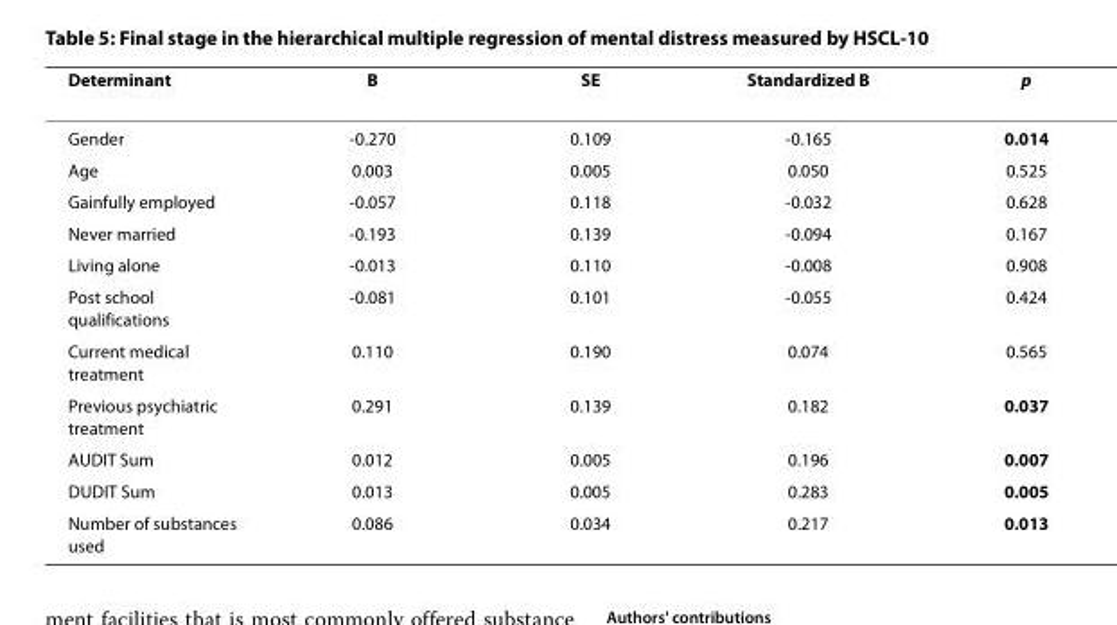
<table><thead><tr><td>Determinant</td><td>B</td><td>SE</td><td>Standardized B</td><td>p</td></tr></thead><tbody><tr><td>Gender</td><td>-0.270</td><td>0.109</td><td>-0.165</td><td>0.014</td></tr><tr><td>Age</td><td>0.003</td><td>0.005</td><td>0.050</td><td>0.525</td></tr><tr><td>Gainfully employed</td><td>-0.057</td><td>0.118</td><td>-0.032</td><td>0.628</td></tr><tr><td>Never married</td><td>-0.193</td><td>0.139</td><td>-0.094</td><td>0.167</td></tr><tr><td>Living alone</td><td>-0.013</td><td>0.110</td><td>-0.008</td><td>0.908</td></tr><tr><td>Post school qualifications</td><td>-0.081</td><td>0.101</td><td>-0.055</td><td>0.424</td></tr><tr><td>Current medical treatment</td><td>0.110</td><td>0.190</td><td>0.074</td><td>0.565</td></tr><tr><td>Previous psychiatric treatment</td><td>0.291</td><td>0.139</td><td>0.182</td><td>0.037</td></tr><tr><td>AUDIT Sum</td><td>0.012</td><td>0.005</td><td>0.196</td><td>0.007</td></tr><tr><td>DUDIT Sum</td><td>0.013</td><td>0.005</td><td>0.283</td><td>0.005</td></tr><tr><td>Number of substances used</td><td>0.086</td><td>0.034</td><td>0.217</td><td>0.013</td></tr></tbody></table>